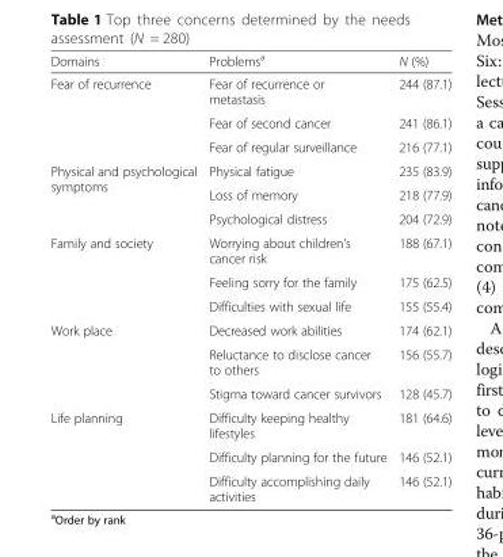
<table><thead><tr><td>Domains</td><td>Problems<sup>a</sup></td><td>N (%)</td></tr></thead><tbody><tr><td rowspan="3">Fear of recurrence</td><td>Fear of recurrence or metastasis</td><td>244 (87.1)</td></tr><tr><td>Fear of second cancer</td><td>241 (86.1)</td></tr><tr><td>Fear of regular surveillance</td><td>216 (77.1)</td></tr><tr><td rowspan="3">Physical and psychological symptoms</td><td>Physical fatigue</td><td>235 (83.9)</td></tr><tr><td>Loss of memory</td><td>218 (77.9)</td></tr><tr><td>Psychological distress</td><td>204 (72.9)</td></tr><tr><td rowspan="3">Family and society</td><td>Worrying about children’s cancer risk</td><td>188 (67.1)</td></tr><tr><td>Feeling sorry for the family</td><td>175 (62.5)</td></tr><tr><td>Difficulties with sexual life</td><td>155 (55.4)</td></tr><tr><td rowspan="3">Work place</td><td>Decreased work abilities</td><td>174 (62.1)</td></tr><tr><td>Reluctance to disclose cancer to others</td><td>156 (55.7)</td></tr><tr><td>Stigma toward cancer survivors</td><td>128 (45.7)</td></tr><tr><td rowspan="3">Life planning</td><td>Difficulty keeping healthy lifestyles</td><td>181 (64.6)</td></tr><tr><td>Difficulty planning for the future</td><td>146 (52.1)</td></tr><tr><td>Difficulty accomplishing daily activities</td><td>146 (52.1)</td></tr></tbody></table>